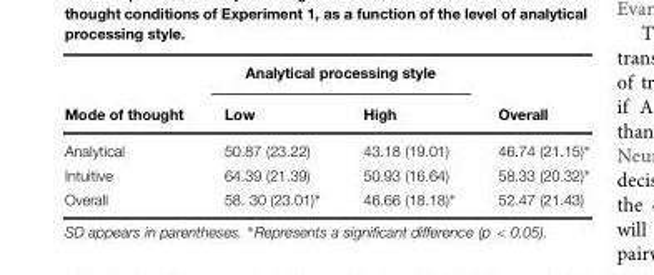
<table><thead><tr><td rowspan="2">Mode of thought</td><td colspan="2">Analytical processing style</td><td rowspan="2">Overall</td></tr><tr><td>Low</td><td>High</td></tr></thead><tbody><tr><td>Analytical</td><td>50.87 (23.22)</td><td>43.18 (19.01)</td><td>46.74 (21.15)∗</td></tr><tr><td>Intuitive</td><td>64.39 (21.39)</td><td>50.93 (16.64)</td><td>58.33 (20.32)∗</td></tr><tr><td>Overall</td><td>58. 30 (23.01)∗</td><td>46.66 (18.18)∗</td><td>52.47 (21.43)</td></tr></tbody></table>